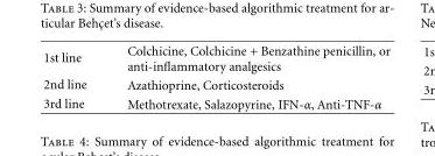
<table><tbody><tr><td>1st line</td><td>Colchicine, Colchicine + Benzathine penicillin, or anti-inflammatory analgesics</td></tr><tr><td>2nd line</td><td>Azathioprine, Corticosteroids</td></tr><tr><td>3rd line</td><td>Methotrexate, Salazopyrine, IFN-α, Anti-TNF-α</td></tr></tbody></table>